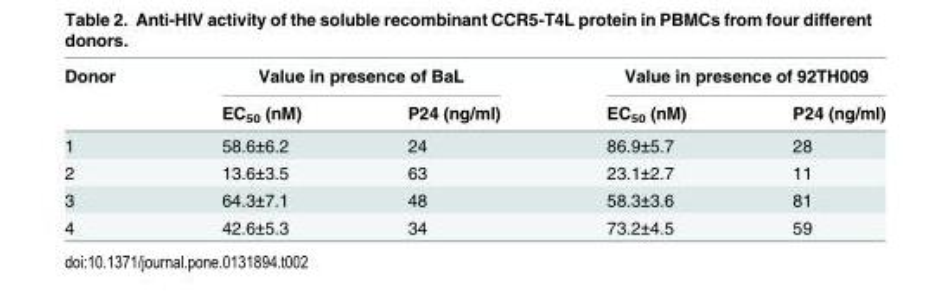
<table><thead><tr><td rowspan="2">Donor</td><td colspan="2">Value in presence of BaL</td><td colspan="2">Value in presence of 92TH009</td></tr><tr><td>EC<sub>50</sub> (nM)</td><td>P24 (ng/ml)</td><td>EC<sub>50</sub> (nM)</td><td>P24 (ng/ml)</td></tr></thead><tbody><tr><td>1</td><td>58.6±6.2</td><td>24</td><td>86.9±5.7</td><td>28</td></tr><tr><td>2</td><td>13.6±3.5</td><td>63</td><td>23.1±2.7</td><td>11</td></tr><tr><td>3</td><td>64.3±7.1</td><td>48</td><td>58.3±3.6</td><td>81</td></tr><tr><td>4</td><td>42.6±5.3</td><td>34</td><td>73.2±4.5</td><td>59</td></tr></tbody></table>